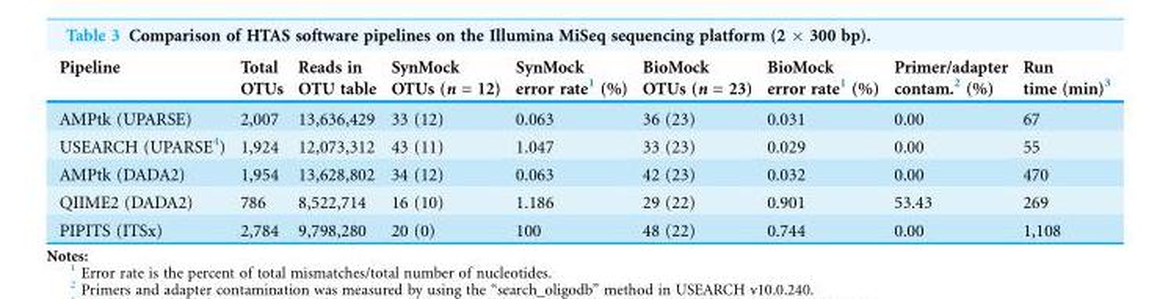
<table><thead><tr><td>Pipeline</td><td>Total OTUs</td><td>Reads in OTU table</td><td>SynMock OTUs (n = 12)</td><td>SynMock error rate<sup>1</sup> (%)</td><td>BioMock OTUs (n = 23)</td><td>BioMock error rate<sup>1</sup> (%)</td><td>Primer/adapter contam.<sup>2</sup> (%)</td><td>Run time (min)<sup>3</sup></td></tr></thead><tbody><tr><td>AMPtk (UPARSE)</td><td>2,007</td><td>13,636,429</td><td>33 (12)</td><td>0.063</td><td>36 (23)</td><td>0.031</td><td>0.00</td><td>67</td></tr><tr><td>USEARCH (UPARSE<sup>4</sup>)</td><td>1,924</td><td>12,073,312</td><td>43 (11)</td><td>1.047</td><td>33 (23)</td><td>0.029</td><td>0.00</td><td>55</td></tr><tr><td>AMPtk (DADA2)</td><td>1,954</td><td>13,628,802</td><td>34 (12)</td><td>0.063</td><td>42 (23)</td><td>0.032</td><td>0.00</td><td>470</td></tr><tr><td>QIIME2 (DADA2)</td><td>786</td><td>8,522,714</td><td>16 (10)</td><td>1.186</td><td>29 (22)</td><td>0.901</td><td>53.43</td><td>269</td></tr><tr><td>PIPITS (ITSx)</td><td>2,784</td><td>9,798,280</td><td>20 (0)</td><td>100</td><td>48 (22)</td><td>0.744</td><td>0.00</td><td>1,108</td></tr></tbody></table>